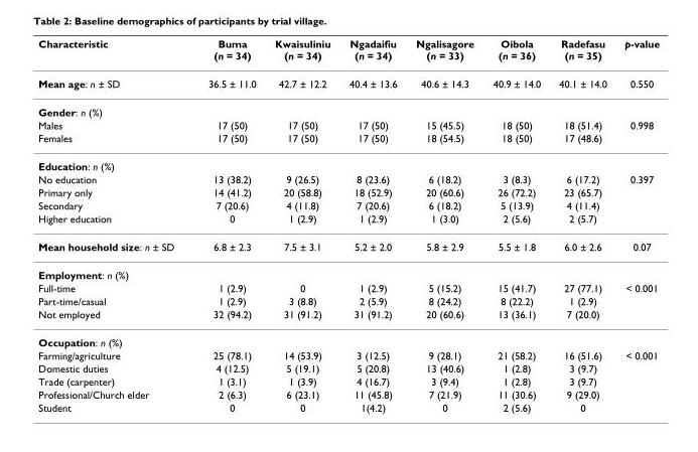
<table><thead><tr><td>Characteristic</td><td>Buma (n = 34)</td><td>Kwaisuliniu (n = 34)</td><td>Ngadaifiu (n = 34)</td><td>Ngalisagore (n = 33)</td><td>Oibola (n = 36)</td><td>Radefasu (n = 35)</td><td>p-value</td></tr></thead><tbody><tr><td>Mean age: n ± SD</td><td>36.5 ± 11.0</td><td>42.7 ± 12.2</td><td>40.4 ± 13.6</td><td>40.6 ± 14.3</td><td>40.9 ± 14.0</td><td>40.1 ± 14.0</td><td>0.550</td></tr><tr><td colspan="8">Gender: n (%)</td></tr><tr><td>Males</td><td>17 (50)</td><td>17 (50)</td><td>17 (50)</td><td>15 (45.5)</td><td>18 (50)</td><td>18 (51.4)</td><td>0.998</td></tr><tr><td>Females</td><td>17 (50)</td><td>17 (50)</td><td>17 (50)</td><td>18 (54.5)</td><td>18 (50)</td><td>17 (48.6)</td><td></td></tr><tr><td colspan="8">Education: n (%)</td></tr><tr><td>No education</td><td>13 (38.2)</td><td>9 (26.5)</td><td>8 (23.6)</td><td>6 (18.2)</td><td>3 (8.3)</td><td>6 (17.2)</td><td>0.397</td></tr><tr><td>Primary only</td><td>14 (41.2)</td><td>20 (58.8)</td><td>18 (52.9)</td><td>20 (60.6)</td><td>26 (72.2)</td><td>23 (65.7)</td><td></td></tr><tr><td>Secondary</td><td>7 (20.6)</td><td>4 (11.8)</td><td>7 (20.6)</td><td>6 (18.2)</td><td>5 (13.9)</td><td>4 (11.4)</td><td></td></tr><tr><td>Higher education</td><td>0</td><td>1 (2.9)</td><td>1 (2.9)</td><td>1 (3.0)</td><td>2 (5.6)</td><td>2 (5.7)</td><td></td></tr><tr><td>Mean household size: n ± SD</td><td>6.8 ± 2.3</td><td>7.5 ± 3.1</td><td>5.2 ± 2.0</td><td>5.8 ± 2.9</td><td>5.5 ± 1.8</td><td>6.0 ± 2.6</td><td>0.07</td></tr><tr><td colspan="8">Employment: n (%)</td></tr><tr><td>Full-time</td><td>1 (2.9)</td><td>0</td><td>1 (2.9)</td><td>5 (15.2)</td><td>15 (41.7)</td><td>27 (77.1)</td><td>&lt; 0.001</td></tr><tr><td>Part-time/casual</td><td>1 (2.9)</td><td>3 (8.8)</td><td>2 (5.9)</td><td>8 (24.2)</td><td>8 (22.2)</td><td>1 (2.9)</td><td></td></tr><tr><td>Not employed</td><td>32 (94.2)</td><td>31 (91.2)</td><td>31 (91.2)</td><td>20 (60.6)</td><td>13 (36.1)</td><td>7 (20.0)</td><td></td></tr><tr><td colspan="8">Occupation: n (%)</td></tr><tr><td>Farming/agriculture</td><td>25 (78.1)</td><td>14 (53.9)</td><td>3 (12.5)</td><td>9 (28.1)</td><td>21 (58.2)</td><td>16 (51.6)</td><td>&lt; 0.001</td></tr><tr><td>Domestic duties</td><td>4 (12.5)</td><td>5 (19.1)</td><td>5 (20.8)</td><td>13 (40.6)</td><td>1 (2.8)</td><td>3 (9.7)</td><td></td></tr><tr><td>Trade (carpenter)</td><td>1 (3.1)</td><td>1 (3.9)</td><td>4 (16.7)</td><td>3 (9.4)</td><td>1 (2.8)</td><td>3 (9.7)</td><td></td></tr><tr><td>Professional/Church elder</td><td>2 (6.3)</td><td>6 (23.1)</td><td>11 (45.8)</td><td>7 (21.9)</td><td>11 (30.6)</td><td>9 (29.0)</td><td></td></tr><tr><td>Student</td><td>0</td><td>0</td><td>1(4.2)</td><td>0</td><td>2 (5.6)</td><td>0</td><td></td></tr></tbody></table>